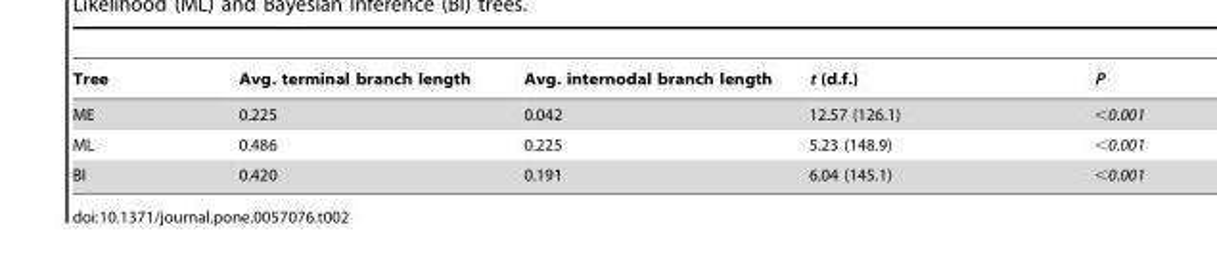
<table><thead><tr><td>Tree</td><td>Avg. terminal branch length</td><td>Avg. internodal branch length</td><td>t (d.f.)</td><td>P</td></tr></thead><tbody><tr><td>ME</td><td>0.225</td><td>0.042</td><td>12.57 (126.1)</td><td>&lt;0.001</td></tr><tr><td>ML</td><td>0.486</td><td>0.225</td><td>5.23 (148.9)</td><td>&lt;0.001</td></tr><tr><td>BI</td><td>0.420</td><td>0.191</td><td>6.04 (145.1)</td><td>&lt;0.001</td></tr></tbody></table>